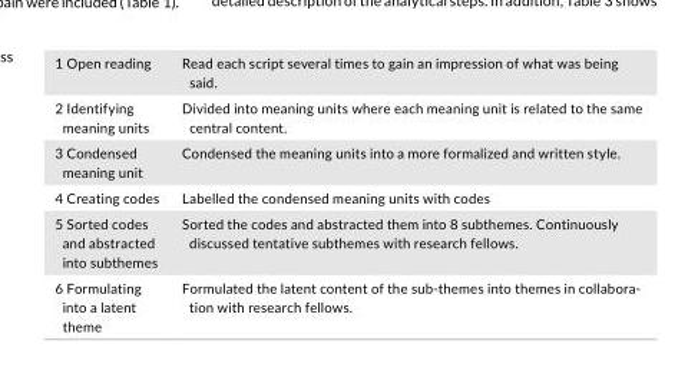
<table><tbody><tr><td>1 Open reading</td><td>Read each script several times to gain an impression of what was being said.</td></tr><tr><td>2 Identifying meaning units</td><td>Divided into meaning units where each meaning unit is related to the same central content.</td></tr><tr><td>3 Condensed meaning unit</td><td>Condensed the meaning units into a more formalized and written style.</td></tr><tr><td>4 Creating codes</td><td>Labelled the condensed meaning units with codes</td></tr><tr><td>5 Sorted codes and abstracted into subthemes</td><td>Sorted the codes and abstracted them into 8 subthemes. Continuously discussed tentative subthemes with research fellows.</td></tr><tr><td>6 Formulating into a latent theme</td><td>Formulated the latent content of the sub- themes into themes in collabora- tion with research fellows.</td></tr></tbody></table>